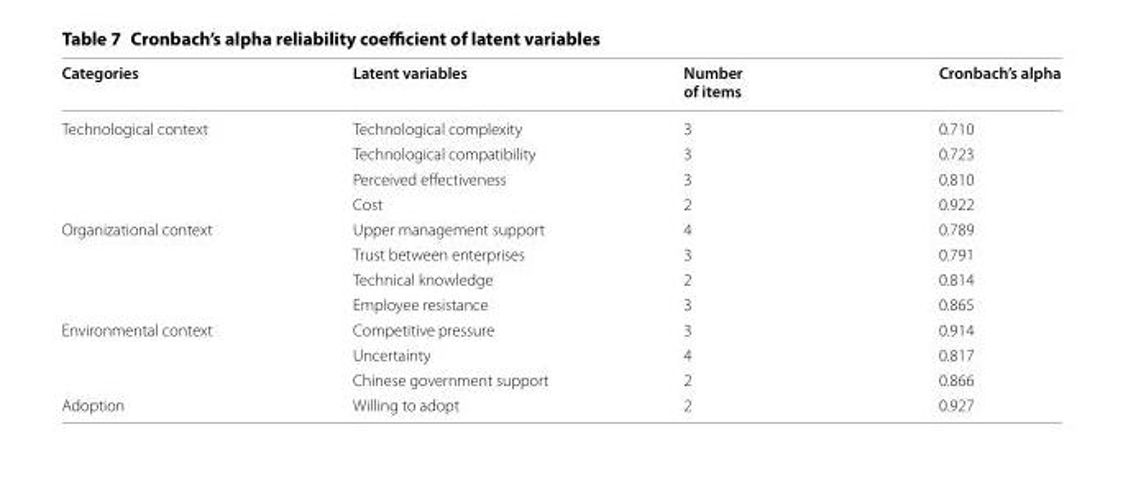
<table><thead><tr><td>Categories</td><td>Latent variables</td><td>Number of items</td><td>Cronbach’s alpha</td></tr></thead><tbody><tr><td rowspan="4">Technological context</td><td>Technological complexity</td><td>3</td><td>0.710</td></tr><tr><td>Technological compatibility</td><td>3</td><td>0.723</td></tr><tr><td>Perceived effectiveness</td><td>3</td><td>0.810</td></tr><tr><td>Cost</td><td>2</td><td>0.922</td></tr><tr><td rowspan="4">Organizational context</td><td>Upper management support</td><td>4</td><td>0.789</td></tr><tr><td>Trust between enterprises</td><td>3</td><td>0.791</td></tr><tr><td>Technical knowledge</td><td>2</td><td>0.814</td></tr><tr><td>Employee resistance</td><td>3</td><td>0.865</td></tr><tr><td rowspan="3">Environmental context</td><td>Competitive pressure</td><td>3</td><td>0.914</td></tr><tr><td>Uncertainty</td><td>4</td><td>0.817</td></tr><tr><td>Chinese government support</td><td>2</td><td>0.866</td></tr><tr><td>Adoption</td><td>Willing to adopt</td><td>2</td><td>0.927</td></tr></tbody></table>